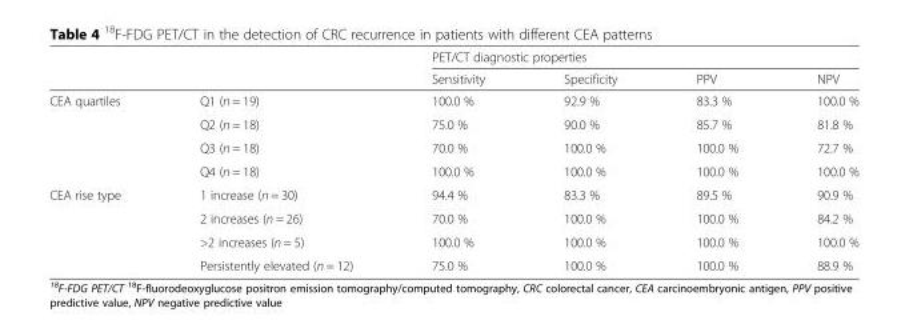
<table><thead><tr><td rowspan="2"></td><td rowspan="2"></td><td colspan="4">PET/CT diagnostic properties</td></tr><tr><td>Sensitivity</td><td>Specificity</td><td>PPV</td><td>NPV</td></tr></thead><tbody><tr><td rowspan="4">CEA quartiles</td><td>Q1 (n = 19)</td><td>100.0 %</td><td>92.9 %</td><td>83.3 %</td><td>100.0 %</td></tr><tr><td>Q2 (n = 18)</td><td>75.0 %</td><td>90.0 %</td><td>85.7 %</td><td>81.8 %</td></tr><tr><td>Q3 (n = 18)</td><td>70.0 %</td><td>100.0 %</td><td>100.0 %</td><td>72.7 %</td></tr><tr><td>Q4 (n = 18)</td><td>100.0 %</td><td>100.0 %</td><td>100.0 %</td><td>100.0 %</td></tr><tr><td rowspan="4">CEA rise type</td><td>1 increase (n = 30)</td><td>94.4 %</td><td>83.3 %</td><td>89.5 %</td><td>90.9 %</td></tr><tr><td>2 increases (n = 26)</td><td>70.0 %</td><td>100.0 %</td><td>100.0 %</td><td>84.2 %</td></tr><tr><td>&gt;2 increases (n = 5)</td><td>100.0 %</td><td>100.0 %</td><td>100.0 %</td><td>100.0 %</td></tr><tr><td>Persistently elevated (n = 12)</td><td>75.0 %</td><td>100.0 %</td><td>100.0 %</td><td>88.9 %</td></tr></tbody></table>